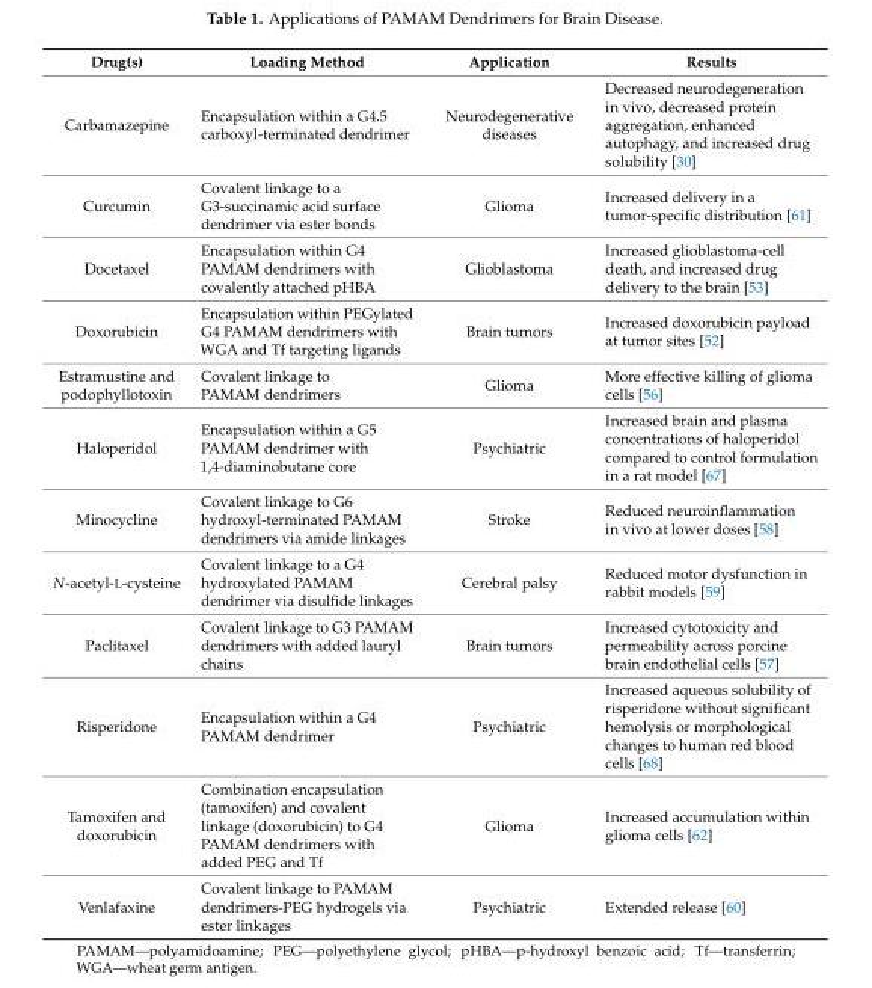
<table><thead><tr><td>Drug(s)</td><td>Loading Method</td><td>Application</td><td>Results</td></tr></thead><tbody><tr><td>Carbamazepine</td><td>Encapsulation within a G4.5 carboxyl-terminated dendrimer</td><td>Neurodegenerative diseases</td><td>Decreased neurodegeneration in vivo, decreased protein aggregation, enhanced autophagy, and increased drug solubility [30]</td></tr><tr><td>Curcumin</td><td>Covalent linkage to a G3-succinamic acid surface dendrimer via ester bonds</td><td>Glioma</td><td>Increased delivery in a tumor-specific distribution [61]</td></tr><tr><td>Docetaxel</td><td>Encapsulation within G4 PAMAM dendrimers with covalently attached pHBA</td><td>Glioblastoma</td><td>Increased glioblastoma-cell death, and increased drug delivery to the brain [53]</td></tr><tr><td>Doxorubicin</td><td>Encapsulation within PEGylated G4 PAMAM dendrimers with WGA and Tf targeting ligands</td><td>Brain tumors</td><td>Increased doxorubicin payload at tumor sites [52]</td></tr><tr><td>Estramustine and podophyllotoxin</td><td>Covalent linkage to PAMAM dendrimers</td><td>Glioma</td><td>More effective killing of glioma cells [56]</td></tr><tr><td>Haloperidol</td><td>Encapsulation within a G5 PAMAM dendrimer with 1,4-diaminobutane core</td><td>Psychiatric</td><td>Increased brain and plasma concentrations of haloperidol compared to control formulation in a rat model [67]</td></tr><tr><td>Minocycline</td><td>Covalent linkage to G6 hydroxyl-terminated PAMAM dendrimers via amide linkages</td><td>Stroke</td><td>Reduced neuroinflammation in vivo at lower doses [58]</td></tr><tr><td>N-acetyl-L-cysteine</td><td>Covalent linkage to a G4 hydroxylated PAMAM dendrimer via disulfide linkages</td><td>Cerebral palsy</td><td>Reduced motor dysfunction in rabbit models [59]</td></tr><tr><td>Paclitaxel</td><td>Covalent linkage to G3 PAMAM dendrimers with added lauryl chains</td><td>Brain tumors</td><td>Increased cytotoxicity and permeability across porcine brain endothelial cells [57]</td></tr><tr><td>Risperidone</td><td>Encapsulation within a G4 PAMAM dendrimer</td><td>Psychiatric</td><td>Increased aqueous solubility of risperidone without significant hemolysis or morphological changes to human red blood cells [68]</td></tr><tr><td>Tamoxifen and doxorubicin</td><td>Combination encapsulation (tamoxifen) and covalent linkage (doxorubicin) to G4 PAMAM dendrimers with added PEG and Tf</td><td>Glioma</td><td>Increased accumulation within glioma cells [62]</td></tr><tr><td>Venlafaxine</td><td>Covalent linkage to PAMAM dendrimers-PEG hydrogels via ester linkages</td><td>Psychiatric</td><td>Extended release [60]</td></tr></tbody></table>